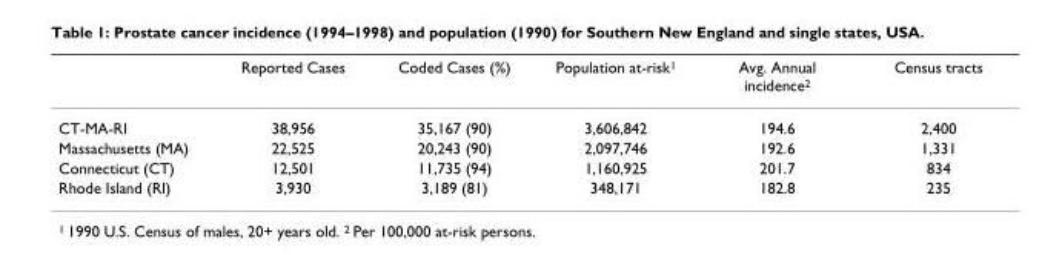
<table><thead><tr><td></td><td>Reported Cases</td><td>Coded Cases (%)</td><td>Population at-risk<sup>1</sup></td><td>Avg. Annual incidence<sup>2</sup></td><td>Census tracts</td></tr></thead><tbody><tr><td>CT-MA-RI</td><td>38,956</td><td>35,167 (90)</td><td>3,606,842</td><td>194.6</td><td>2,400</td></tr><tr><td>Massachusetts (MA)</td><td>22,525</td><td>20,243 (90)</td><td>2,097,746</td><td>192.6</td><td>1,331</td></tr><tr><td>Connecticut (CT)</td><td>12,501</td><td>11,735 (94)</td><td>1,160,925</td><td>201.7</td><td>834</td></tr><tr><td>Rhode Island (RI)</td><td>3,930</td><td>3,189 (81)</td><td>348,171</td><td>182.8</td><td>235</td></tr></tbody></table>